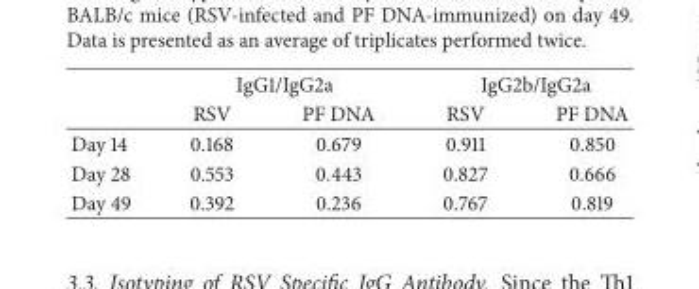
<table><thead><tr><td rowspan="2"></td><td colspan="2">IgG1/IgG2a</td><td colspan="2">IgG2b/IgG2a</td></tr><tr><td>RSV</td><td>PF DNA</td><td>RSV</td><td>PF DNA</td></tr></thead><tbody><tr><td>Day 14</td><td>0.168</td><td>0.679</td><td>0.911</td><td>0.850</td></tr><tr><td>Day 28</td><td>0.553</td><td>0.443</td><td>0.827</td><td>0.666</td></tr><tr><td>Day 49</td><td>0.392</td><td>0.236</td><td>0.767</td><td>0.819</td></tr></tbody></table>